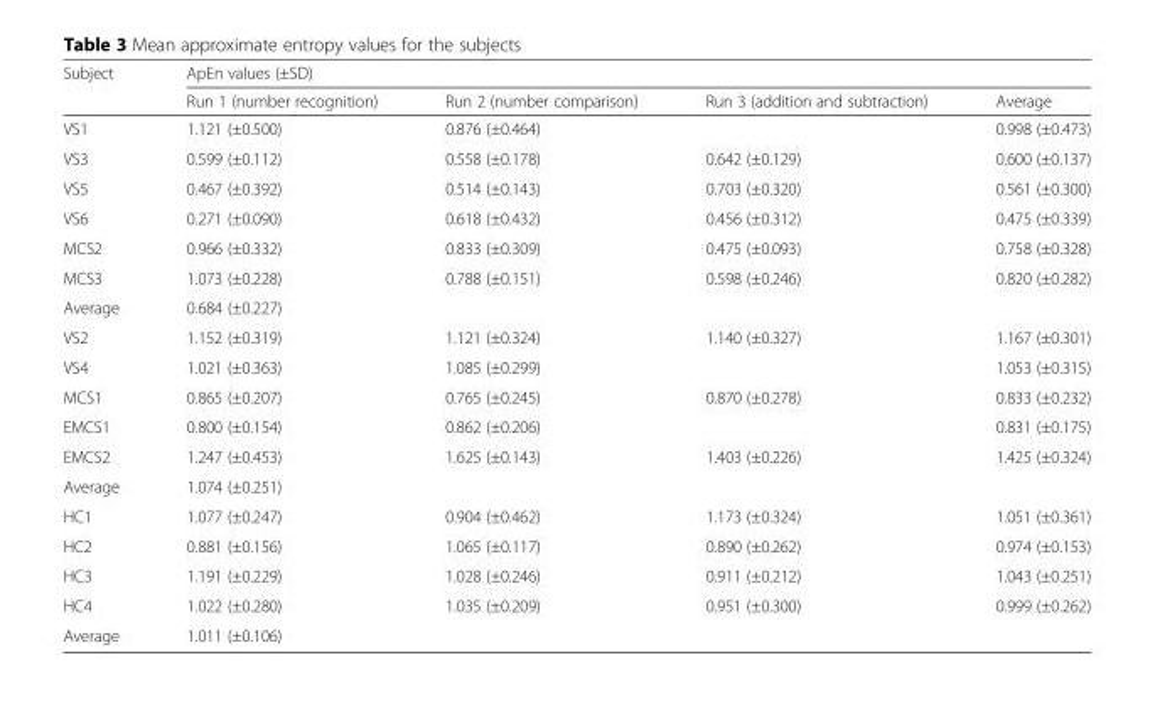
<table><thead><tr><td rowspan="2">Subject</td><td colspan="4">ApEn values (±SD)</td></tr><tr><td>Run 1 (number recognition)</td><td>Run 2 (number comparison)</td><td>Run 3 (addition and subtraction)</td><td>Average</td></tr></thead><tbody><tr><td>VS1</td><td>1.121 (±0.500)</td><td>0.876 (±0.464)</td><td></td><td>0.998 (±0.473)</td></tr><tr><td>VS3</td><td>0.599 (±0.112)</td><td>0.558 (±0.178)</td><td>0.642 (±0.129)</td><td>0.600 (±0.137)</td></tr><tr><td>VS5</td><td>0.467 (±0.392)</td><td>0.514 (±0.143)</td><td>0.703 (±0.320)</td><td>0.561 (±0.300)</td></tr><tr><td>VS6</td><td>0.271 (±0.090)</td><td>0.618 (±0.432)</td><td>0.456 (±0.312)</td><td>0.475 (±0.339)</td></tr><tr><td>MCS2</td><td>0.966 (±0.332)</td><td>0.833 (±0.309)</td><td>0.475 (±0.093)</td><td>0.758 (±0.328)</td></tr><tr><td>MCS3</td><td>1.073 (±0.228)</td><td>0.788 (±0.151)</td><td>0.598 (±0.246)</td><td>0.820 (±0.282)</td></tr><tr><td>Average</td><td colspan="4">0.684 (±0.227)</td></tr><tr><td>VS2</td><td>1.152 (±0.319)</td><td>1.121 (±0.324)</td><td>1.140 (±0.327)</td><td>1.167 (±0.301)</td></tr><tr><td>VS4</td><td>1.021 (±0.363)</td><td>1.085 (±0.299)</td><td></td><td>1.053 (±0.315)</td></tr><tr><td>MCS1</td><td>0.865 (±0.207)</td><td>0.765 (±0.245)</td><td>0.870 (±0.278)</td><td>0.833 (±0.232)</td></tr><tr><td>EMCS1</td><td>0.800 (±0.154)</td><td>0.862 (±0.206)</td><td></td><td>0.831 (±0.175)</td></tr><tr><td>EMCS2</td><td>1.247 (±0.453)</td><td>1.625 (±0.143)</td><td>1.403 (±0.226)</td><td>1.425 (±0.324)</td></tr><tr><td>Average</td><td colspan="4">1.074 (±0.251)</td></tr><tr><td>HC1</td><td>1.077 (±0.247)</td><td>0.904 (±0.462)</td><td>1.173 (±0.324)</td><td>1.051 (±0.361)</td></tr><tr><td>HC2</td><td>0.881 (±0.156)</td><td>1.065 (±0.117)</td><td>0.890 (±0.262)</td><td>0.974 (±0.153)</td></tr><tr><td>HC3</td><td>1.191 (±0.229)</td><td>1.028 (±0.246)</td><td>0.911 (±0.212)</td><td>1.043 (±0.251)</td></tr><tr><td>HC4</td><td>1.022 (±0.280)</td><td>1.035 (±0.209)</td><td>0.951 (±0.300)</td><td>0.999 (±0.262)</td></tr><tr><td>Average</td><td colspan="4">1.011 (±0.106)</td></tr></tbody></table>